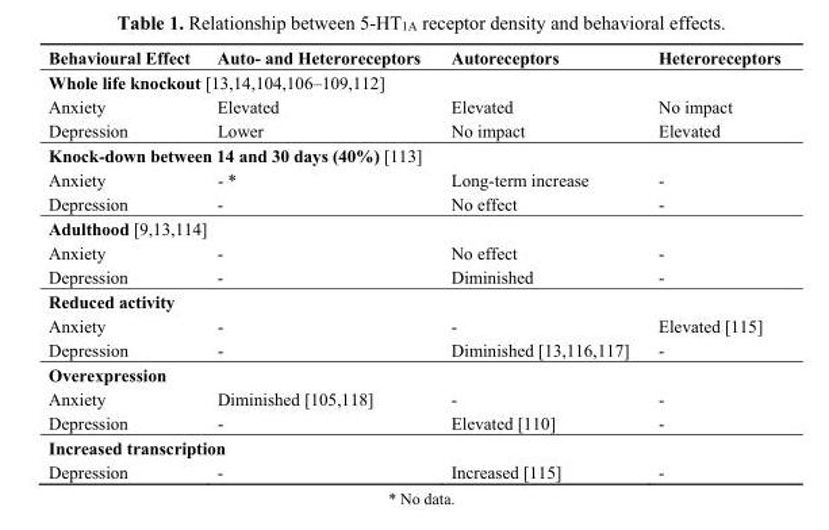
<table><thead><tr><td>Behavioural Effect</td><td>Auto- and Heteroreceptors</td><td>Autoreceptors</td><td>Heteroreceptors</td></tr></thead><tbody><tr><td colspan="4">Whole life knockout [13,14,104,106–109,112]</td></tr><tr><td>Anxiety</td><td>Elevated</td><td>Elevated</td><td>No impact</td></tr><tr><td>Depression</td><td>Lower</td><td>No impact</td><td>Elevated</td></tr><tr><td colspan="4">Knock-down between 14 and 30 days (40%) [113]</td></tr><tr><td>Anxiety</td><td>- *</td><td>Long-term increase</td><td>-</td></tr><tr><td>Depression</td><td>-</td><td>No effect</td><td>-</td></tr><tr><td colspan="4">Adulthood [9,13,114]</td></tr><tr><td>Anxiety</td><td>-</td><td>No effect</td><td>-</td></tr><tr><td>Depression</td><td>-</td><td>Diminished</td><td>-</td></tr><tr><td colspan="4">Reduced activity</td></tr><tr><td>Anxiety</td><td>-</td><td>-</td><td>Elevated [115]</td></tr><tr><td>Depression</td><td>-</td><td>Diminished [13,116,117]</td><td>-</td></tr><tr><td colspan="4">Overexpression</td></tr><tr><td>Anxiety</td><td>Diminished [105,118]</td><td>-</td><td>-</td></tr><tr><td>Depression</td><td>-</td><td>Elevated [110]</td><td>-</td></tr><tr><td colspan="4">Increased transcription</td></tr><tr><td>Depression</td><td>-</td><td>Increased [115]</td><td>-</td></tr></tbody></table>